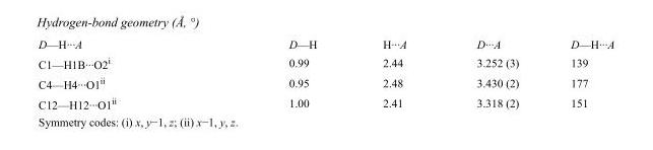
<table><tbody><tr><td>D—H···A</td><td>D—H</td><td>H···A</td><td>D···A</td><td>D—H···A</td></tr><tr><td>C1—H1B···O2<sup>i</sup></td><td>0.99</td><td>2.44</td><td>3.252 (3)</td><td>139</td></tr><tr><td>C4—H4···O1<sup>ii</sup></td><td>0.95</td><td>2.48</td><td>3.430 (2)</td><td>177</td></tr><tr><td>C12—H12···O1<sup>ii</sup></td><td>1.00</td><td>2.41</td><td>3.318 (2)</td><td>151</td></tr></tbody></table>